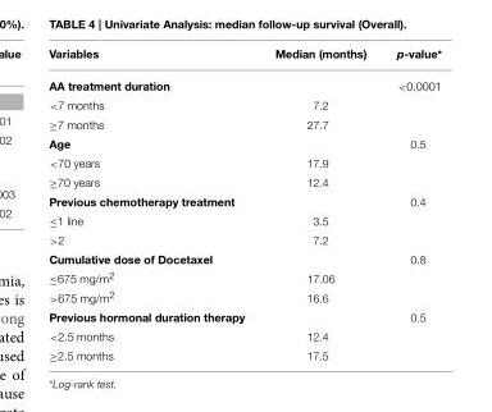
<table><thead><tr><td>Variables</td><td>Median (months)</td><td>p-value*</td></tr></thead><tbody><tr><td>AA treatment duration</td><td></td><td>&lt;0.0001</td></tr><tr><td>&lt;7 months</td><td>7.2</td><td></td></tr><tr><td>≥7 months</td><td>27.7</td><td></td></tr><tr><td>Age</td><td></td><td>0.5</td></tr><tr><td>&lt;70 years</td><td>17.9</td><td></td></tr><tr><td>≥70 years</td><td>12.4</td><td></td></tr><tr><td>Previous chemotherapy treatment</td><td></td><td>0.4</td></tr><tr><td>≤1 line</td><td>3.5</td><td></td></tr><tr><td>&gt;2</td><td>7.2</td><td></td></tr><tr><td>Cumulative dose of Docetaxel</td><td></td><td>0.8</td></tr><tr><td>≤675 mg/m<sup>2</sup></td><td>17.06</td><td></td></tr><tr><td>&gt;675 mg/m<sup>2</sup></td><td>16.6</td><td></td></tr><tr><td>Previous hormonal duration therapy</td><td></td><td>0.5</td></tr><tr><td>&lt;2.5 months</td><td>12.4</td><td></td></tr><tr><td>≥2.5 months</td><td>17.5</td><td></td></tr></tbody></table>